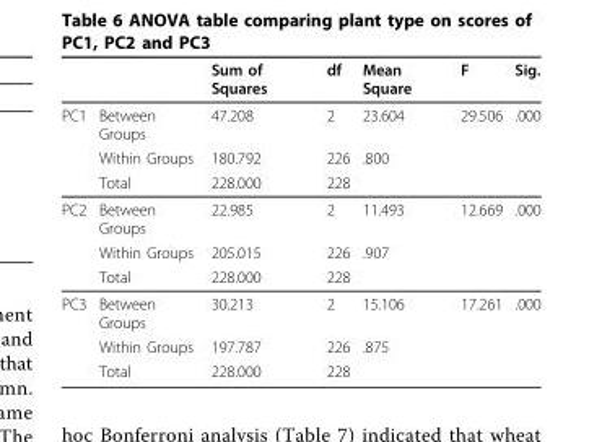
<table><thead><tr><td></td><td></td><td>Sum of Squares</td><td>df</td><td>Mean Square</td><td>F</td><td>Sig.</td></tr></thead><tbody><tr><td rowspan="3">PC1</td><td>Between Groups</td><td>47.208</td><td>2</td><td>23.604</td><td>29.506</td><td>.000</td></tr><tr><td>Within Groups</td><td>180.792</td><td>226</td><td>.800</td><td></td><td></td></tr><tr><td>Total</td><td>228.000</td><td>228</td><td></td><td></td><td></td></tr><tr><td rowspan="3">PC2</td><td>Between Groups</td><td>22.985</td><td>2</td><td>11.493</td><td>12.669</td><td>.000</td></tr><tr><td>Within Groups</td><td>205.015</td><td>226</td><td>.907</td><td></td><td></td></tr><tr><td>Total</td><td>228.000</td><td>228</td><td></td><td></td><td></td></tr><tr><td rowspan="3">PC3</td><td>Between Groups</td><td>30.213</td><td>2</td><td>15.106</td><td>17.261</td><td>.000</td></tr><tr><td>Within Groups</td><td>197.787</td><td>226</td><td>.875</td><td></td><td></td></tr><tr><td>Total</td><td>228.000</td><td>228</td><td></td><td></td><td></td></tr></tbody></table>